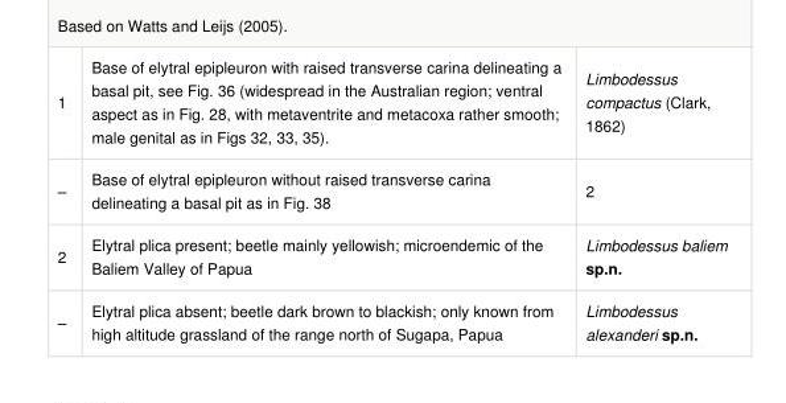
<table><tbody><tr><td>1</td><td>Base of elytral epipleuron with raised transverse carina delineating a basal pit, see Fig. 36 (widespread in the Australian region; ventral aspect as in Fig. 28, with metaventrite and metacoxa rather smooth; male genital as in Figs 32, 33, 35).</td><td>Limbodessus compactus (Clark, 1862)</td></tr><tr><td>–</td><td>Base of elytral epipleuron without raised transverse carina delineating a basal pit as in Fig. 38</td><td>2</td></tr><tr><td>2</td><td>Elytral plica present; beetle mainly yellowish; microendemic of the Baliem Valley of Papua</td><td>Limbodessus baliem sp.n.</td></tr><tr><td>–</td><td>Elytral plica absent; beetle dark brown to blackish; only known from high altitude grassland of the range north of Sugapa, Papua</td><td>Limbodessus alexanderi sp.n.</td></tr></tbody></table>